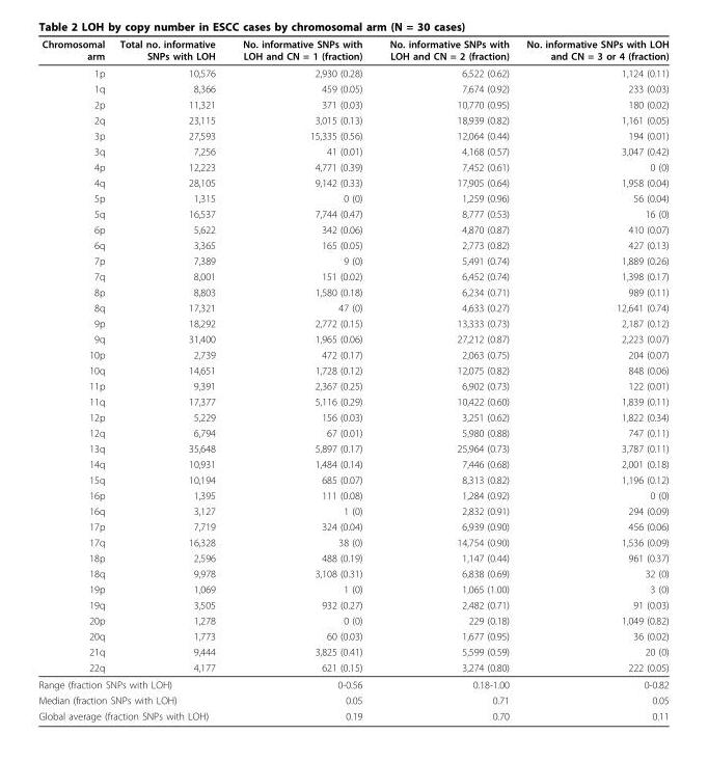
<table><thead><tr><td>Chromosomal arm</td><td>Total no. informative SNPs with LOH</td><td>No. informative SNPs with LOH and CN = 1 (fraction)</td><td>No. informative SNPs with LOH and CN = 2 (fraction)</td><td>No. informative SNPs with LOH and CN = 3 or 4 (fraction)</td></tr></thead><tbody><tr><td>1p</td><td>10,576</td><td>2,930 (0.28)</td><td>6,522 (0.62)</td><td>1,124 (0.11)</td></tr><tr><td>1q</td><td>8,366</td><td>459 (0.05)</td><td>7,674 (0.92)</td><td>233 (0.03)</td></tr><tr><td>2p</td><td>11,321</td><td>371 (0.03)</td><td>10,770 (0.95)</td><td>180 (0.02)</td></tr><tr><td>2q</td><td>23,115</td><td>3,015 (0.13)</td><td>18,939 (0.82)</td><td>1,161 (0.05)</td></tr><tr><td>3p</td><td>27,593</td><td>15,335 (0.56)</td><td>12,064 (0.44)</td><td>194 (0.01)</td></tr><tr><td>3q</td><td>7,256</td><td>41 (0.01)</td><td>4,168 (0.57)</td><td>3,047 (0.42)</td></tr><tr><td>4p</td><td>12,223</td><td>4,771 (0.39)</td><td>7,452 (0.61)</td><td>0 (0)</td></tr><tr><td>4q</td><td>28,105</td><td>9,142 (0.33)</td><td>17,905 (0.64)</td><td>1,958 (0.04)</td></tr><tr><td>5p</td><td>1,315</td><td>0 (0)</td><td>1,259 (0.96)</td><td>56 (0.04)</td></tr><tr><td>5q</td><td>16,537</td><td>7,744 (0.47)</td><td>8,777 (0.53)</td><td>16 (0)</td></tr><tr><td>6p</td><td>5,622</td><td>342 (0.06)</td><td>4,870 (0.87)</td><td>410 (0.07)</td></tr><tr><td>6q</td><td>3,365</td><td>165 (0.05)</td><td>2,773 (0.82)</td><td>427 (0.13)</td></tr><tr><td>7p</td><td>7,389</td><td>9 (0)</td><td>5,491 (0.74)</td><td>1,889 (0.26)</td></tr><tr><td>7q</td><td>8,001</td><td>151 (0.02)</td><td>6,452 (0.74)</td><td>1,398 (0.17)</td></tr><tr><td>8p</td><td>8,803</td><td>1,580 (0.18)</td><td>6,234 (0.71)</td><td>989 (0.11)</td></tr><tr><td>8q</td><td>17,321</td><td>47 (0)</td><td>4,633 (0.27)</td><td>12,641 (0.74)</td></tr><tr><td>9p</td><td>18,292</td><td>2,772 (0.15)</td><td>13,333 (0.73)</td><td>2,187 (0.12)</td></tr><tr><td>9q</td><td>31,400</td><td>1,965 (0.06)</td><td>27,212 (0.87)</td><td>2,223 (0.07)</td></tr><tr><td>10p</td><td>2,739</td><td>472 (0.17)</td><td>2,063 (0.75)</td><td>204 (0.07)</td></tr><tr><td>10q</td><td>14,651</td><td>1,728 (0.12)</td><td>12,075 (0.82)</td><td>848 (0.06)</td></tr><tr><td>11p</td><td>9,391</td><td>2,367 (0.25)</td><td>6,902 (0.73)</td><td>122 (0.01)</td></tr><tr><td>11q</td><td>17,377</td><td>5,116 (0.29)</td><td>10,422 (0.60)</td><td>1,839 (0.11)</td></tr><tr><td>12p</td><td>5,229</td><td>156 (0.03)</td><td>3,251 (0.62)</td><td>1,822 (0.34)</td></tr><tr><td>12q</td><td>6,794</td><td>67 (0.01)</td><td>5,980 (0.88)</td><td>747 (0.11)</td></tr><tr><td>13q</td><td>35,648</td><td>5,897 (0.17)</td><td>25,964 (0.73)</td><td>3,787 (0.11)</td></tr><tr><td>14q</td><td>10,931</td><td>1,484 (0.14)</td><td>7,446 (0.68)</td><td>2,001 (0.18)</td></tr><tr><td>15q</td><td>10,194</td><td>685 (0.07)</td><td>8,313 (0.82)</td><td>1,196 (0.12)</td></tr><tr><td>16p</td><td>1,395</td><td>111 (0.08)</td><td>1,284 (0.92)</td><td>0 (0)</td></tr><tr><td>16q</td><td>3,127</td><td>1 (0)</td><td>2,832 (0.91)</td><td>294 (0.09)</td></tr><tr><td>17p</td><td>7,719</td><td>324 (0.04)</td><td>6,939 (0.90)</td><td>456 (0.06)</td></tr><tr><td>17q</td><td>16,328</td><td>38 (0)</td><td>14,754 (0.90)</td><td>1,536 (0.09)</td></tr><tr><td>18p</td><td>2,596</td><td>488 (0.19)</td><td>1,147 (0.44)</td><td>961 (0.37)</td></tr><tr><td>18q</td><td>9,978</td><td>3,108 (0.31)</td><td>6,838 (0.69)</td><td>32 (0)</td></tr><tr><td>19p</td><td>1,069</td><td>1 (0)</td><td>1,065 (1.00)</td><td>3 (0)</td></tr><tr><td>19q</td><td>3,505</td><td>932 (0.27)</td><td>2,482 (0.71)</td><td>91 (0.03)</td></tr><tr><td>20p</td><td>1,278</td><td>0 (0)</td><td>229 (0.18)</td><td>1,049 (0.82)</td></tr><tr><td>20q</td><td>1,773</td><td>60 (0.03)</td><td>1,677 (0.95)</td><td>36 (0.02)</td></tr><tr><td>21q</td><td>9,444</td><td>3,825 (0.41)</td><td>5,599 (0.59)</td><td>20 (0)</td></tr><tr><td>22q</td><td>4,177</td><td>621 (0.15)</td><td>3,274 (0.80)</td><td>222 (0.05)</td></tr><tr><td colspan="2">Range (fraction SNPs with LOH)</td><td>0-0.56</td><td>0.18-1.00</td><td>0-0.82</td></tr><tr><td colspan="2">Median (fraction SNPs with LOH)</td><td>0.05</td><td>0.71</td><td>0.05</td></tr><tr><td colspan="2">Global average (fraction SNPs with LOH)</td><td>0.19</td><td>0.70</td><td>0.11</td></tr></tbody></table>